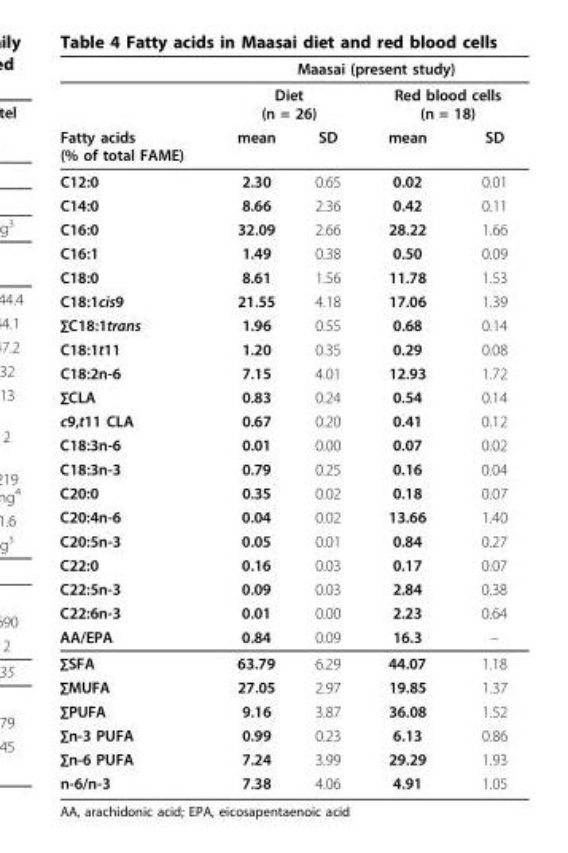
<table><thead><tr><td rowspan="3">Fatty acids (% of total FAME)</td><td colspan="4">Maasai (present study)</td></tr><tr><td colspan="2">Diet (n = 26)</td><td colspan="2">Red blood cells (n = 18)</td></tr><tr><td>mean</td><td>SD</td><td>mean</td><td>SD</td></tr></thead><tbody><tr><td>C12:0</td><td>2.30</td><td>0.65</td><td>0.02</td><td>0.01</td></tr><tr><td>C14:0</td><td>8.66</td><td>2.36</td><td>0.42</td><td>0.11</td></tr><tr><td>C16:0</td><td>32.09</td><td>2.66</td><td>28.22</td><td>1.66</td></tr><tr><td>C16:1</td><td>1.49</td><td>0.38</td><td>0.50</td><td>0.09</td></tr><tr><td>C18:0</td><td>8.61</td><td>1.56</td><td>11.78</td><td>1.53</td></tr><tr><td>C18:1cis9</td><td>21.55</td><td>4.18</td><td>17.06</td><td>1.39</td></tr><tr><td>∑C18:1trans</td><td>1.96</td><td>0.55</td><td>0.68</td><td>0.14</td></tr><tr><td>C18:1t11</td><td>1.20</td><td>0.35</td><td>0.29</td><td>0.08</td></tr><tr><td>C18:2n-6</td><td>7.15</td><td>4.01</td><td>12.93</td><td>1.72</td></tr><tr><td>∑CLA</td><td>0.83</td><td>0.24</td><td>0.54</td><td>0.14</td></tr><tr><td>c9,t11 CLA</td><td>0.67</td><td>0.20</td><td>0.41</td><td>0.12</td></tr><tr><td>C18:3n-6</td><td>0.01</td><td>0.00</td><td>0.07</td><td>0.02</td></tr><tr><td>C18:3n-3</td><td>0.79</td><td>0.25</td><td>0.16</td><td>0.04</td></tr><tr><td>C20:0</td><td>0.35</td><td>0.02</td><td>0.18</td><td>0.07</td></tr><tr><td>C20:4n-6</td><td>0.04</td><td>0.02</td><td>13.66</td><td>1.40</td></tr><tr><td>C20:5n-3</td><td>0.05</td><td>0.01</td><td>0.84</td><td>0.27</td></tr><tr><td>C22:0</td><td>0.16</td><td>0.03</td><td>0.17</td><td>0.07</td></tr><tr><td>C22:5n-3</td><td>0.09</td><td>0.03</td><td>2.84</td><td>0.38</td></tr><tr><td>C22:6n-3</td><td>0.01</td><td>0.00</td><td>2.23</td><td>0.64</td></tr><tr><td>AA/EPA</td><td>0.84</td><td>0.09</td><td>16.3</td><td>–</td></tr><tr><td>∑SFA</td><td>63.79</td><td>6.29</td><td>44.07</td><td>1.18</td></tr><tr><td>∑MUFA</td><td>27.05</td><td>2.97</td><td>19.85</td><td>1.37</td></tr><tr><td>∑PUFA</td><td>9.16</td><td>3.87</td><td>36.08</td><td>1.52</td></tr><tr><td>∑n-3 PUFA</td><td>0.99</td><td>0.23</td><td>6.13</td><td>0.86</td></tr><tr><td>∑n-6 PUFA</td><td>7.24</td><td>3.99</td><td>29.29</td><td>1.93</td></tr><tr><td>n-6/n-3</td><td>7.38</td><td>4.06</td><td>4.91</td><td>1.05</td></tr></tbody></table>